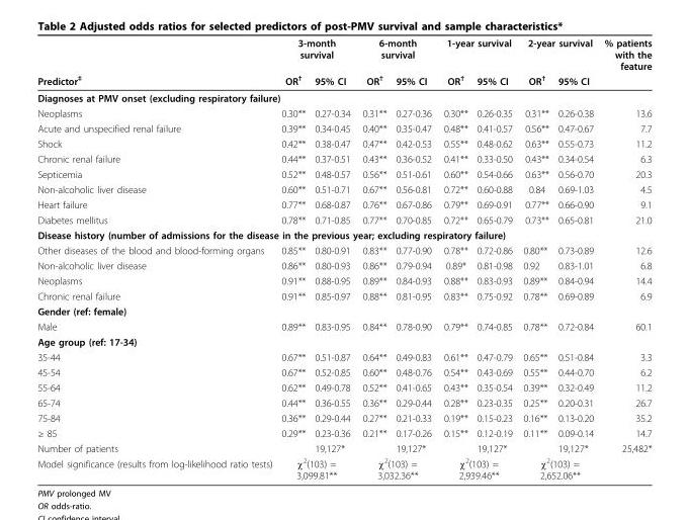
<table><thead><tr><td rowspan="2">Predictor<sup>‡</sup></td><td colspan="2">3-month survival</td><td colspan="2">6-month survival</td><td colspan="2">1-year survival</td><td colspan="2">2-year survival</td><td rowspan="2">% patients with the feature</td></tr><tr><td>OR<sup>†</sup></td><td>95% CI</td><td>OR<sup>†</sup></td><td>95% CI</td><td>OR<sup>†</sup></td><td>95% CI</td><td>OR<sup>†</sup></td><td>95% CI</td></tr></thead><tbody><tr><td colspan="10">Diagnoses at PMV onset (excluding respiratory failure)</td></tr><tr><td>Neoplasms</td><td>0.30**</td><td>0.27-0.34</td><td>0.31**</td><td>0.27-0.36</td><td>0.30**</td><td>0.26-0.35</td><td>0.31**</td><td>0.26-0.38</td><td>13.6</td></tr><tr><td>Acute and unspecified renal failure</td><td>0.39**</td><td>0.34-0.45</td><td>0.40**</td><td>0.35-0.47</td><td>0.48**</td><td>0.41-0.57</td><td>0.56**</td><td>0.47-0.67</td><td>7.7</td></tr><tr><td>Shock</td><td>0.42**</td><td>0.38-0.47</td><td>0.47**</td><td>0.42-0.53</td><td>0.55**</td><td>0.48-0.62</td><td>0.63**</td><td>0.55-0.73</td><td>11.2</td></tr><tr><td>Chronic renal failure</td><td>0.44**</td><td>0.37-0.51</td><td>0.43**</td><td>0.36-0.52</td><td>0.41**</td><td>0.33-0.50</td><td>0.43**</td><td>0.34-0.54</td><td>6.3</td></tr><tr><td>Septicemia</td><td>0.52**</td><td>0.48-0.57</td><td>0.56**</td><td>0.51-0.61</td><td>0.60**</td><td>0.54-0.66</td><td>0.63**</td><td>0.56-0.70</td><td>20.3</td></tr><tr><td>Non-alcoholic liver disease</td><td>0.60**</td><td>0.51-0.71</td><td>0.67**</td><td>0.56-0.81</td><td>0.72**</td><td>0.60-0.88</td><td>0.84</td><td>0.69-1.03</td><td>4.5</td></tr><tr><td>Heart failure</td><td>0.77**</td><td>0.68-0.87</td><td>0.76**</td><td>0.67-0.86</td><td>0.79**</td><td>0.69-0.91</td><td>0.77**</td><td>0.66-0.90</td><td>9.1</td></tr><tr><td>Diabetes mellitus</td><td>0.78**</td><td>0.71-0.85</td><td>0.77**</td><td>0.70-0.85</td><td>0.72**</td><td>0.65-0.79</td><td>0.73**</td><td>0.65-0.81</td><td>21.0</td></tr><tr><td colspan="10">Disease history (number of admissions for the disease in the previous year; excluding respiratory failure)</td></tr><tr><td>Other diseases of the blood and blood-forming organs</td><td>0.85**</td><td>0.80-0.91</td><td>0.83**</td><td>0.77-0.90</td><td>0.78**</td><td>0.72-0.86</td><td>0.80**</td><td>0.73-0.89</td><td>12.6</td></tr><tr><td>Non-alcoholic liver disease</td><td>0.86**</td><td>0.80-0.93</td><td>0.86**</td><td>0.79-0.94</td><td>0.89*</td><td>0.81-0.98</td><td>0.92</td><td>0.83-1.01</td><td>6.8</td></tr><tr><td>Neoplasms</td><td>0.91**</td><td>0.88-0.95</td><td>0.89**</td><td>0.84-0.93</td><td>0.88**</td><td>0.83-0.93</td><td>0.89**</td><td>0.84-0.94</td><td>14.4</td></tr><tr><td>Chronic renal failure</td><td>0.91**</td><td>0.85-0.97</td><td>0.88**</td><td>0.81-0.95</td><td>0.83**</td><td>0.75-0.92</td><td>0.78**</td><td>0.69-0.89</td><td>6.9</td></tr><tr><td colspan="10">Gender (ref: female)</td></tr><tr><td>Male</td><td>0.89**</td><td>0.83-0.95</td><td>0.84**</td><td>0.78-0.90</td><td>0.79**</td><td>0.74-0.85</td><td>0.78**</td><td>0.72-0.84</td><td>60.1</td></tr><tr><td colspan="10">Age group (ref: 17-34)</td></tr><tr><td>35-44</td><td>0.67**</td><td>0.51-0.87</td><td>0.64**</td><td>0.49-0.83</td><td>0.61**</td><td>0.47-0.79</td><td>0.65**</td><td>0.51-0.84</td><td>3.3</td></tr><tr><td>45-54</td><td>0.67**</td><td>0.52-0.85</td><td>0.60**</td><td>0.48-0.76</td><td>0.54**</td><td>0.43-0.69</td><td>0.55**</td><td>0.44-0.70</td><td>6.2</td></tr><tr><td>55-64</td><td>0.62**</td><td>0.49-0.78</td><td>0.52**</td><td>0.41-0.65</td><td>0.43**</td><td>0.35-0.54</td><td>0.39**</td><td>0.32-0.49</td><td>11.2</td></tr><tr><td>65-74</td><td>0.44**</td><td>0.36-0.55</td><td>0.36**</td><td>0.29-0.44</td><td>0.28**</td><td>0.23-0.35</td><td>0.25**</td><td>0.20-0.31</td><td>26.7</td></tr><tr><td>75-84</td><td>0.36**</td><td>0.29-0.44</td><td>0.27**</td><td>0.21-0.33</td><td>0.19**</td><td>0.15-0.23</td><td>0.16**</td><td>0.13-0.20</td><td>35.2</td></tr><tr><td>≥ 85</td><td>0.29**</td><td>0.23-0.36</td><td>0.21**</td><td>0.17-0.26</td><td>0.15**</td><td>0.12-0.19</td><td>0.11**</td><td>0.09-0.14</td><td>14.7</td></tr><tr><td>Number of patients</td><td></td><td>19,127*</td><td></td><td>19,127*</td><td></td><td>19,127*</td><td></td><td>19,127*</td><td>25,482*</td></tr><tr><td>Model significance (results from log-likelihood ratio tests)</td><td colspan="2">χ<sup>2</sup>(103) = 3,099.81**</td><td colspan="2">χ<sup>2</sup>(103) = 3,032.36**</td><td colspan="2">χ<sup>2</sup>(103) = 2,939.46**</td><td colspan="2">χ<sup>2</sup>(103) = 2,652.06**</td><td></td></tr></tbody></table>